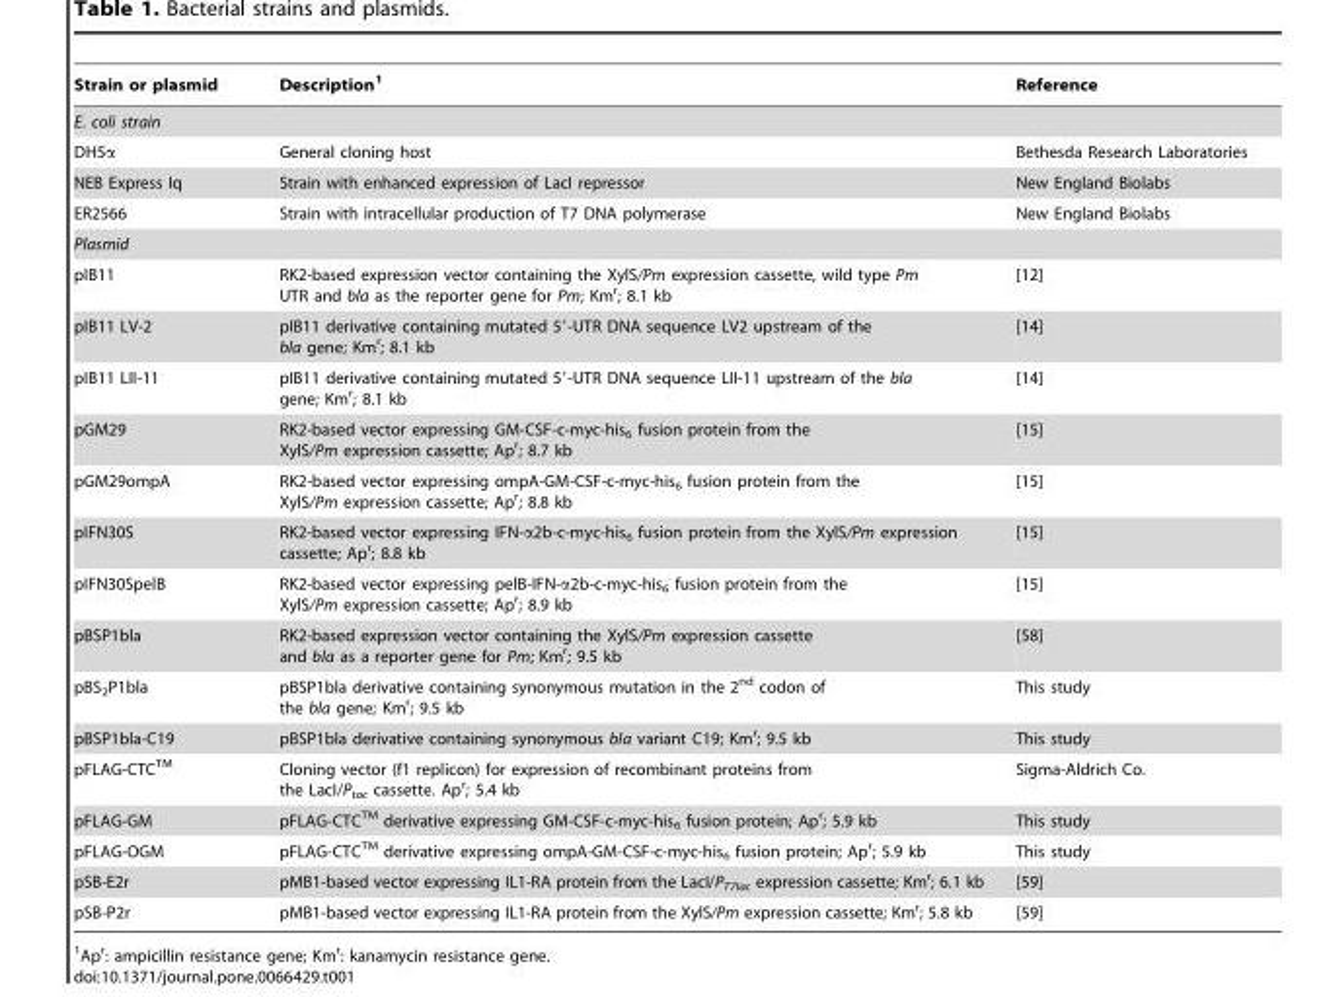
<table><thead><tr><td>Strain or plasmid</td><td>Description<sup>1</sup></td><td>Reference</td></tr></thead><tbody><tr><td colspan="3">E. coli strain</td></tr><tr><td>DH5α</td><td>General cloning host</td><td>Bethesda Research Laboratories</td></tr><tr><td>NEB Express Iq</td><td>Strain with enhanced expression of LacI repressor</td><td>New England Biolabs</td></tr><tr><td>ER2566</td><td>Strain with intracellular production of T7 DNA polymerase</td><td>New England Biolabs</td></tr><tr><td colspan="3">Plasmid</td></tr><tr><td>pIB11</td><td>RK2-based expression vector containing the XylS/Pm expression cassette, wild type Pm UTR and bla as the reporter gene for Pm; Km<sup>r</sup>; 8.1 kb</td><td>[12]</td></tr><tr><td>pIB11 LV-2</td><td>pIB11 derivative containing mutated 5′-UTR DNA sequence LV2 upstream of the bla gene; Km<sup>r</sup>; 8.1 kb</td><td>[14]</td></tr><tr><td>pIB11 LII-11</td><td>pIB11 derivative containing mutated 5′-UTR DNA sequence LII-11 upstream of the bla gene; Km<sup>r</sup>; 8.1 kb</td><td>[14]</td></tr><tr><td>pGM29</td><td>RK2-based vector expressing GM-CSF-c-myc-his<sub>6</sub> fusion protein from the XylS/Pm expression cassette; Ap<sup>r</sup>; 8.7 kb</td><td>[15]</td></tr><tr><td>pGM29ompA</td><td>RK2-based vector expressing ompA-GM-CSF-c-myc-his<sub>6</sub> fusion protein from the XylS/Pm expression cassette; Ap<sup>r</sup>; 8.8 kb</td><td>[15]</td></tr><tr><td>pIFN30S</td><td>RK2-based vector expressing IFN-α2b-c-myc-his<sub>6</sub> fusion protein from the XylS/Pm expression cassette; Ap<sup>r</sup>; 8.8 kb</td><td>[15]</td></tr><tr><td>pIFN30SpelB</td><td>RK2-based vector expressing pelB-IFN-α2b-c-myc-his<sub>6</sub> fusion protein from the XylS/Pm expression cassette; Ap<sup>r</sup>; 8.9 kb</td><td>[15]</td></tr><tr><td>pBSP1bla</td><td>RK2-based expression vector containing the XylS/Pm expression cassette and bla as a reporter gene for Pm; Km<sup>r</sup>; 9.5 kb</td><td>[58]</td></tr><tr><td>pBS<sub>2</sub>P1bla</td><td>pBSP1bla derivative containing synonymous mutation in the 2<sup>nd</sup> codon of the bla gene; Km<sup>r</sup>; 9.5 kb</td><td>This study</td></tr><tr><td>pBSP1bla-C19</td><td>pBSP1bla derivative containing synonymous bla variant C19; Km<sup>r</sup>; 9.5 kb</td><td>This study</td></tr><tr><td>pFLAG-CTCTM</td><td>Cloning vector (f1 replicon) for expression of recombinant proteins from the LacI/P<sub>tac</sub> cassette. Ap<sup>r</sup>; 5.4 kb</td><td>Sigma-Aldrich Co.</td></tr><tr><td>pFLAG-GM</td><td>pFLAG-CTCTM derivative expressing GM-CSF-c-myc-his<sub>6</sub> fusion protein; Ap<sup>r</sup>; 5.9 kb</td><td>This study</td></tr><tr><td>pFLAG-OGM</td><td>pFLAG-CTCTM derivative expressing ompA-GM-CSF-c-myc-his<sub>6</sub> fusion protein; Ap<sup>r</sup>; 5.9 kb</td><td>This study</td></tr><tr><td>pSB-E2r</td><td>pMB1-based vector expressing IL1-RA protein from the LacI/P<sub>T7lac</sub> expression cassette; Km<sup>r</sup>; 6.1 kb</td><td>[59]</td></tr><tr><td>pSB-P2r</td><td>pMB1-based vector expressing IL1-RA protein from the XylS/Pm expression cassette; Km<sup>r</sup>; 5.8 kb</td><td>[59]</td></tr></tbody></table>